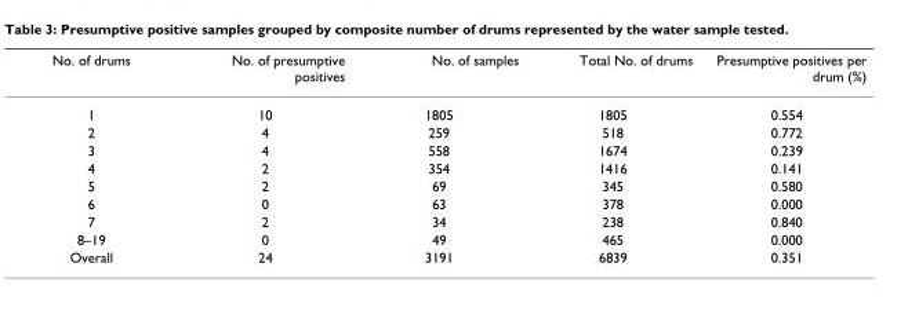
<table><thead><tr><td>No. of drums</td><td>No. of presumptive positives</td><td>No. of samples</td><td>Total No. of drums</td><td>Presumptive positives per drum (%)</td></tr></thead><tbody><tr><td>1</td><td>10</td><td>1805</td><td>1805</td><td>0.554</td></tr><tr><td>2</td><td>4</td><td>259</td><td>518</td><td>0.772</td></tr><tr><td>3</td><td>4</td><td>558</td><td>1674</td><td>0.239</td></tr><tr><td>4</td><td>2</td><td>354</td><td>1416</td><td>0.141</td></tr><tr><td>5</td><td>2</td><td>69</td><td>345</td><td>0.580</td></tr><tr><td>6</td><td>0</td><td>63</td><td>378</td><td>0.000</td></tr><tr><td>7</td><td>2</td><td>34</td><td>238</td><td>0.840</td></tr><tr><td>8–19</td><td>0</td><td>49</td><td>465</td><td>0.000</td></tr><tr><td>Overall</td><td>24</td><td>3191</td><td>6839</td><td>0.351</td></tr></tbody></table>